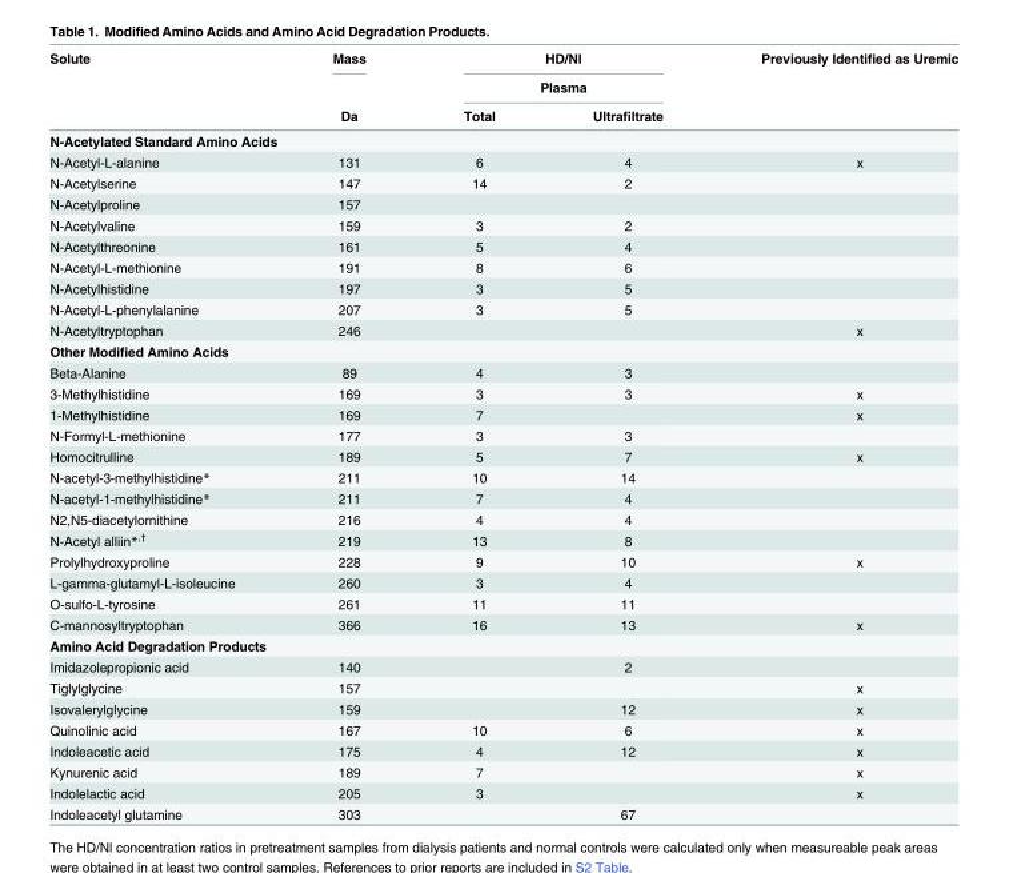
<table><thead><tr><td rowspan="3">Solute</td><td rowspan="3">Mass Da</td><td rowspan="2" colspan="2">HD/Nl Plasma</td><td rowspan="3">Previously Identified as Uremic</td></tr><tr></tr><tr><td>Total</td><td>Ultrafiltrate</td></tr></thead><tbody><tr><td colspan="5">N-Acetylated Standard Amino Acids</td></tr><tr><td>N-Acetyl-L-alanine</td><td>131</td><td>6</td><td>4</td><td>x</td></tr><tr><td>N-Acetylserine</td><td>147</td><td>14</td><td>2</td><td></td></tr><tr><td>N-Acetylproline</td><td>157</td><td></td><td></td><td></td></tr><tr><td>N-Acetylvaline</td><td>159</td><td>3</td><td>2</td><td></td></tr><tr><td>N-Acetylthreonine</td><td>161</td><td>5</td><td>4</td><td></td></tr><tr><td>N-Acetyl-L-methionine</td><td>191</td><td>8</td><td>6</td><td></td></tr><tr><td>N-Acetylhistidine</td><td>197</td><td>3</td><td>5</td><td></td></tr><tr><td>N-Acetyl-L-phenylalanine</td><td>207</td><td>3</td><td>5</td><td></td></tr><tr><td>N-Acetyltryptophan</td><td>246</td><td></td><td></td><td>x</td></tr><tr><td colspan="5">Other Modified Amino Acids</td></tr><tr><td>Beta-Alanine</td><td>89</td><td>4</td><td>3</td><td></td></tr><tr><td>3-Methylhistidine</td><td>169</td><td>3</td><td>3</td><td>x</td></tr><tr><td>1-Methylhistidine</td><td>169</td><td>7</td><td></td><td>x</td></tr><tr><td>N-Formyl-L-methionine</td><td>177</td><td>3</td><td>3</td><td></td></tr><tr><td>Homocitrulline</td><td>189</td><td>5</td><td>7</td><td>x</td></tr><tr><td>N-acetyl-3-methylhistidine*</td><td>211</td><td>10</td><td>14</td><td></td></tr><tr><td>N-acetyl-1-methylhistidine*</td><td>211</td><td>7</td><td>4</td><td></td></tr><tr><td>N2,N5-diacetylornithine</td><td>216</td><td>4</td><td>4</td><td></td></tr><tr><td>N-Acetyl alliin*<sup>,†</sup></td><td>219</td><td>13</td><td>8</td><td></td></tr><tr><td>Prolylhydroxyproline</td><td>228</td><td>9</td><td>10</td><td>x</td></tr><tr><td>L-gamma-glutamyl-L-isoleucine</td><td>260</td><td>3</td><td>4</td><td></td></tr><tr><td>O-sulfo-L-tyrosine</td><td>261</td><td>11</td><td>11</td><td></td></tr><tr><td>C-mannosyltryptophan</td><td>366</td><td>16</td><td>13</td><td>x</td></tr><tr><td colspan="5">Amino Acid Degradation Products</td></tr><tr><td>Imidazolepropionic acid</td><td>140</td><td></td><td>2</td><td></td></tr><tr><td>Tiglylglycine</td><td>157</td><td></td><td></td><td>x</td></tr><tr><td>Isovalerylglycine</td><td>159</td><td></td><td>12</td><td>x</td></tr><tr><td>Quinolinic acid</td><td>167</td><td>10</td><td>6</td><td>x</td></tr><tr><td>Indoleacetic acid</td><td>175</td><td>4</td><td>12</td><td>x</td></tr><tr><td>Kynurenic acid</td><td>189</td><td>7</td><td></td><td>x</td></tr><tr><td>Indolelactic acid</td><td>205</td><td>3</td><td></td><td>x</td></tr><tr><td>Indoleacetyl glutamine</td><td>303</td><td></td><td>67</td><td></td></tr></tbody></table>